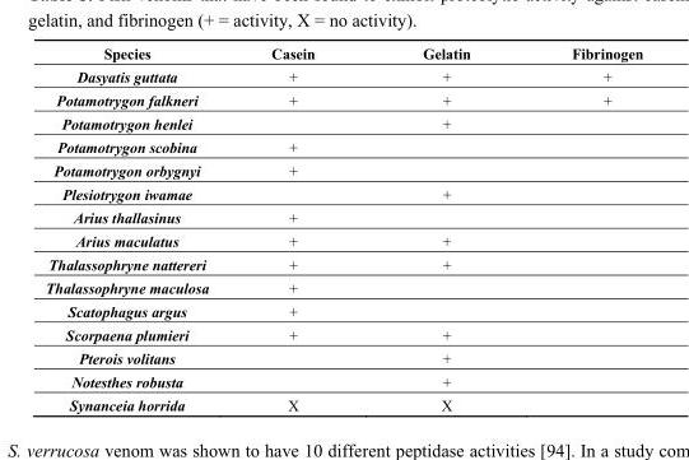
<table><thead><tr><td>Species</td><td>Casein</td><td>Gelatin</td><td>Fibrinogen</td></tr></thead><tbody><tr><td>Dasyatis guttata</td><td>+</td><td>+</td><td>+</td></tr><tr><td>Potamotrygon falkneri</td><td>+</td><td>+</td><td>+</td></tr><tr><td>Potamotrygon henlei</td><td></td><td>+</td><td></td></tr><tr><td>Potamotrygon scobina</td><td>+</td><td></td><td></td></tr><tr><td>Potamotrygon orbygnyi</td><td>+</td><td></td><td></td></tr><tr><td>Plesiotrygon iwamae</td><td></td><td>+</td><td></td></tr><tr><td>Arius thallasinus</td><td>+</td><td></td><td></td></tr><tr><td>Arius maculatus</td><td>+</td><td>+</td><td></td></tr><tr><td>Thalassophryne nattereri</td><td>+</td><td>+</td><td></td></tr><tr><td>Thalassophryne maculosa</td><td>+</td><td></td><td></td></tr><tr><td>Scatophagus argus</td><td>+</td><td></td><td></td></tr><tr><td>Scorpaena plumieri</td><td>+</td><td>+</td><td></td></tr><tr><td>Pterois volitans</td><td></td><td>+</td><td></td></tr><tr><td>Notesthes robusta</td><td></td><td>+</td><td></td></tr><tr><td>Synanceia horrida</td><td>X</td><td>X</td><td></td></tr></tbody></table>